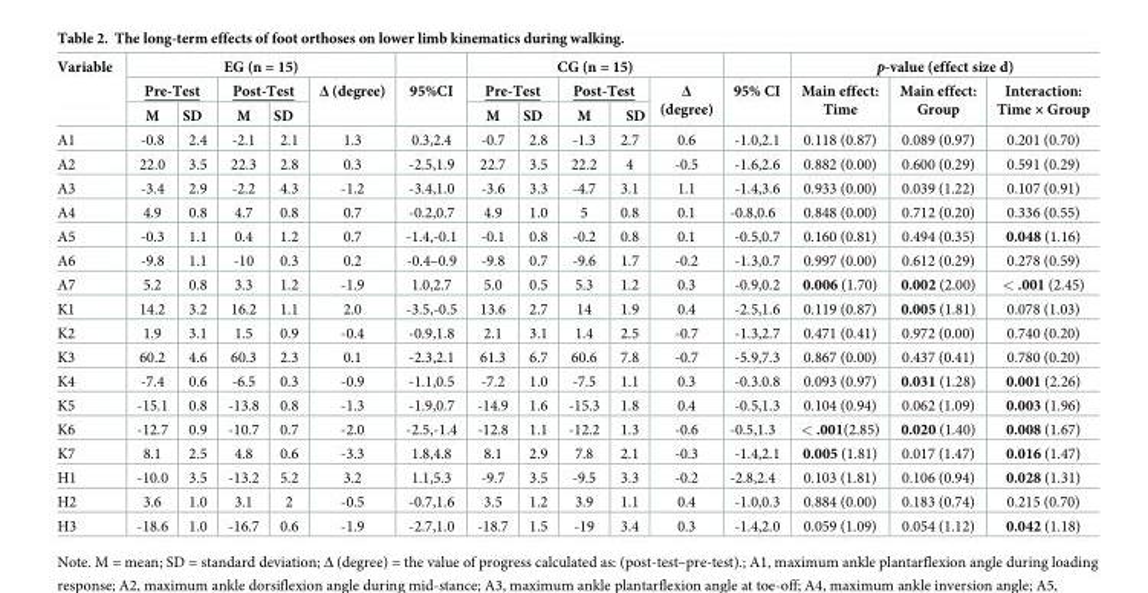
<table><thead><tr><td rowspan="3">Variable</td><td colspan="5">EG (n = 15)</td><td rowspan="3">95%CI</td><td colspan="5">CG (n = 15)</td><td rowspan="3">95% CI</td><td colspan="3">p-value (effect size d)</td></tr><tr><td colspan="2">Pre-Test</td><td colspan="2">Post-Test</td><td rowspan="2">Δ (degree)</td><td colspan="2">Pre-Test</td><td colspan="2">Post-Test</td><td rowspan="2">Δ (degree)</td><td rowspan="2">Main effect: Time</td><td rowspan="2">Main effect: Group</td><td rowspan="2">Interaction: Time × Group</td></tr><tr><td>M</td><td>SD</td><td>M</td><td>SD</td><td>M</td><td>SD</td><td>M</td><td>SD</td></tr></thead><tbody><tr><td>A1</td><td>-0.8</td><td>2.4</td><td>-2.1</td><td>2.1</td><td>1.3</td><td>0.3,2.4</td><td>-0.7</td><td>2.8</td><td>-1.3</td><td>2.7</td><td>0.6</td><td>-1.0,2.1</td><td>0.118 (0.87)</td><td>0.089 (0.97)</td><td>0.201 (0.70)</td></tr><tr><td>A2</td><td>22.0</td><td>3.5</td><td>22.3</td><td>2.8</td><td>0.3</td><td>-2.5,1.9</td><td>22.7</td><td>3.5</td><td>22.2</td><td>4</td><td>-0.5</td><td>-1.6,2.6</td><td>0.882 (0.00)</td><td>0.600 (0.29)</td><td>0.591 (0.29)</td></tr><tr><td>A3</td><td>-3.4</td><td>2.9</td><td>-2.2</td><td>4.3</td><td>-1.2</td><td>-3.4,1.0</td><td>-3.6</td><td>3.3</td><td>-4.7</td><td>3.1</td><td>1.1</td><td>-1.4,3.6</td><td>0.933 (0.00)</td><td>0.039 (1.22)</td><td>0.107 (0.91)</td></tr><tr><td>A4</td><td>4.9</td><td>0.8</td><td>4.7</td><td>0.8</td><td>0.7</td><td>-0.2,0.7</td><td>4.9</td><td>1.0</td><td>5</td><td>0.8</td><td>0.1</td><td>-0.8,0.6</td><td>0.848 (0.00)</td><td>0.712 (0.20)</td><td>0.336 (0.55)</td></tr><tr><td>A5</td><td>-0.3</td><td>1.1</td><td>0.4</td><td>1.2</td><td>0.7</td><td>-1.4,-0.1</td><td>-0.1</td><td>0.8</td><td>-0.2</td><td>0.8</td><td>0.1</td><td>-0.5,0.7</td><td>0.160 (0.81)</td><td>0.494 (0.35)</td><td>0.048 (1.16)</td></tr><tr><td>A6</td><td>-9.8</td><td>1.1</td><td>-10</td><td>0.3</td><td>0.2</td><td>-0.4–0.9</td><td>-9.8</td><td>0.7</td><td>-9.6</td><td>1.7</td><td>-0.2</td><td>-1.3,0.7</td><td>0.997 (0.00)</td><td>0.612 (0.29)</td><td>0.278 (0.59)</td></tr><tr><td>A7</td><td>5.2</td><td>0.8</td><td>3.3</td><td>1.2</td><td>-1.9</td><td>1.0,2.7</td><td>5.0</td><td>0.5</td><td>5.3</td><td>1.2</td><td>0.3</td><td>-0.9,0.2</td><td>0.006 (1.70)</td><td>0.002 (2.00)</td><td>&lt; .001 (2.45)</td></tr><tr><td>K1</td><td>14.2</td><td>3.2</td><td>16.2</td><td>1.1</td><td>2.0</td><td>-3.5,-0.5</td><td>13.6</td><td>2.7</td><td>14</td><td>1.9</td><td>0.4</td><td>-2.5,1.6</td><td>0.119 (0.87)</td><td>0.005 (1.81)</td><td>0.078 (1.03)</td></tr><tr><td>K2</td><td>1.9</td><td>3.1</td><td>1.5</td><td>0.9</td><td>-0.4</td><td>-0.9,1.8</td><td>2.1</td><td>3.1</td><td>1.4</td><td>2.5</td><td>-0.7</td><td>-1.3,2.7</td><td>0.471 (0.41)</td><td>0.972 (0.00)</td><td>0.740 (0.20)</td></tr><tr><td>K3</td><td>60.2</td><td>4.6</td><td>60.3</td><td>2.3</td><td>0.1</td><td>-2.3,2.1</td><td>61.3</td><td>6.7</td><td>60.6</td><td>7.8</td><td>-0.7</td><td>-5.9,7.3</td><td>0.867 (0.00)</td><td>0.437 (0.41)</td><td>0.780 (0.20)</td></tr><tr><td>K4</td><td>-7.4</td><td>0.6</td><td>-6.5</td><td>0.3</td><td>-0.9</td><td>-1.1,0.5</td><td>-7.2</td><td>1.0</td><td>-7.5</td><td>1.1</td><td>0.3</td><td>-0.3.0.8</td><td>0.093 (0.97)</td><td>0.031 (1.28)</td><td>0.001 (2.26)</td></tr><tr><td>K5</td><td>-15.1</td><td>0.8</td><td>-13.8</td><td>0.8</td><td>-1.3</td><td>-1.9,0.7</td><td>-14.9</td><td>1.6</td><td>-15.3</td><td>1.8</td><td>0.4</td><td>-0.5,1.3</td><td>0.104 (0.94)</td><td>0.062 (1.09)</td><td>0.003 (1.96)</td></tr><tr><td>K6</td><td>-12.7</td><td>0.9</td><td>-10.7</td><td>0.7</td><td>-2.0</td><td>-2.5,-1.4</td><td>-12.8</td><td>1.1</td><td>-12.2</td><td>1.3</td><td>-0.6</td><td>-0.5,1.3</td><td>&lt; .001(2.85)</td><td>0.020 (1.40)</td><td>0.008 (1.67)</td></tr><tr><td>K7</td><td>8.1</td><td>2.5</td><td>4.8</td><td>0.6</td><td>-3.3</td><td>1.8,4.8</td><td>8.1</td><td>2.9</td><td>7.8</td><td>2.1</td><td>-0.3</td><td>-1.4,2.1</td><td>0.005 (1.81)</td><td>0.017 (1.47)</td><td>0.016 (1.47)</td></tr><tr><td>H1</td><td>-10.0</td><td>3.5</td><td>-13.2</td><td>5.2</td><td>3.2</td><td>1.1,5.3</td><td>-9.7</td><td>3.5</td><td>-9.5</td><td>3.3</td><td>-0.2</td><td>-2.8,2.4</td><td>0.103 (1.81)</td><td>0.106 (0.94)</td><td>0.028 (1.31)</td></tr><tr><td>H2</td><td>3.6</td><td>1.0</td><td>3.1</td><td>2</td><td>-0.5</td><td>-0.7,1.6</td><td>3.5</td><td>1.2</td><td>3.9</td><td>1.1</td><td>0.4</td><td>-1.0,0.3</td><td>0.884 (0.00)</td><td>0.183 (0.74)</td><td>0.215 (0.70)</td></tr><tr><td>H3</td><td>-18.6</td><td>1.0</td><td>-16.7</td><td>0.6</td><td>-1.9</td><td>-2.7,1.0</td><td>-18.7</td><td>1.5</td><td>-19</td><td>3.4</td><td>0.3</td><td>-1.4,2.0</td><td>0.059 (1.09)</td><td>0.054 (1.12)</td><td>0.042 (1.18)</td></tr></tbody></table>